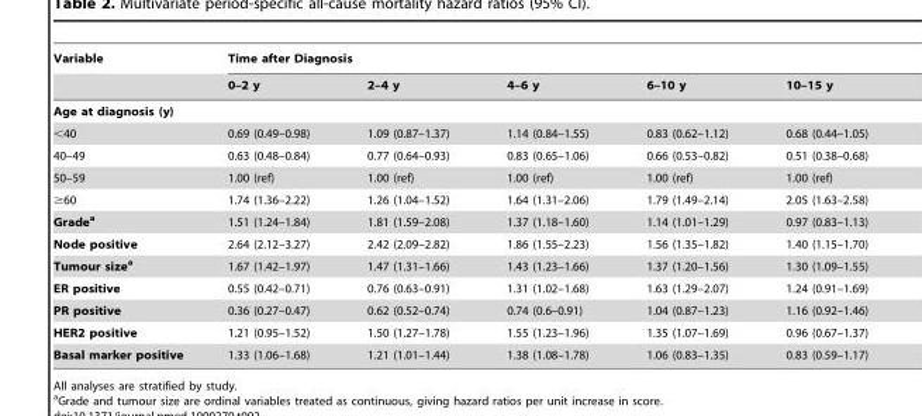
<table><thead><tr><td rowspan="2">Variable</td><td colspan="5">Time after Diagnosis</td></tr><tr><td>0–2 y</td><td>2–4 y</td><td>4–6 y</td><td>6–10 y</td><td>10–15 y</td></tr></thead><tbody><tr><td colspan="6">Age at diagnosis (y)</td></tr><tr><td>&lt;40</td><td>0.69 (0.49–0.98)</td><td>1.09 (0.87–1.37)</td><td>1.14 (0.84–1.55)</td><td>0.83 (0.62–1.12)</td><td>0.68 (0.44–1.05)</td></tr><tr><td>40–49</td><td>0.63 (0.48–0.84)</td><td>0.77 (0.64–0.93)</td><td>0.83 (0.65–1.06)</td><td>0.66 (0.53–0.82)</td><td>0.51 (0.38–0.68)</td></tr><tr><td>50–59</td><td>1.00 (ref)</td><td>1.00 (ref)</td><td>1.00 (ref)</td><td>1.00 (ref)</td><td>1.00 (ref)</td></tr><tr><td>≥60</td><td>1.74 (1.36–2.22)</td><td>1.26 (1.04–1.52)</td><td>1.64 (1.31–2.06)</td><td>1.79 (1.49–2.14)</td><td>2.05 (1.63–2.58)</td></tr><tr><td>Gradea</td><td>1.51 (1.24–1.84)</td><td>1.81 (1.59–2.08)</td><td>1.37 (1.18–1.60)</td><td>1.14 (1.01–1.29)</td><td>0.97 (0.83–1.13)</td></tr><tr><td>Node positive</td><td>2.64 (2.12–3.27)</td><td>2.42 (2.09–2.82)</td><td>1.86 (1.55–2.23)</td><td>1.56 (1.35–1.82)</td><td>1.40 (1.15–1.70)</td></tr><tr><td>Tumour sizea</td><td>1.67 (1.42–1.97)</td><td>1.47 (1.31–1.66)</td><td>1.43 (1.23–1.66)</td><td>1.37 (1.20–1.56)</td><td>1.30 (1.09–1.55)</td></tr><tr><td>ER positive</td><td>0.55 (0.42–0.71)</td><td>0.76 (0.63–0.91)</td><td>1.31 (1.02–1.68)</td><td>1.63 (1.29–2.07)</td><td>1.24 (0.91–1.69)</td></tr><tr><td>PR positive</td><td>0.36 (0.27–0.47)</td><td>0.62 (0.52–0.74)</td><td>0.74 (0.6–0.91)</td><td>1.04 (0.87–1.23)</td><td>1.16 (0.92–1.46)</td></tr><tr><td>HER2 positive</td><td>1.21 (0.95–1.52)</td><td>1.50 (1.27–1.78)</td><td>1.55 (1.23–1.96)</td><td>1.35 (1.07–1.69)</td><td>0.96 (0.67–1.37)</td></tr><tr><td>Basal marker positive</td><td>1.33 (1.06–1.68)</td><td>1.21 (1.01–1.44)</td><td>1.38 (1.08–1.78)</td><td>1.06 (0.83–1.35)</td><td>0.83 (0.59–1.17)</td></tr></tbody></table>